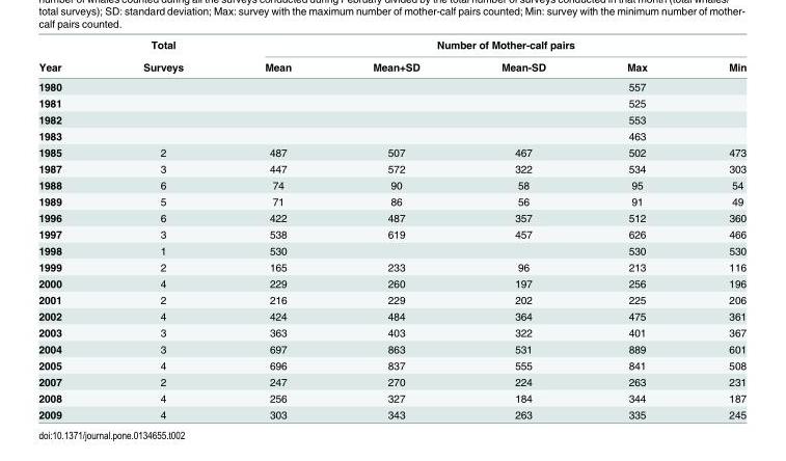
<table><thead><tr><td rowspan="2">Year</td><td rowspan="2">Total Surveys</td><td colspan="5">Number of Mother-calf pairs</td></tr><tr><td>Mean</td><td>Mean+SD</td><td>Mean-SD</td><td>Max</td><td>Min</td></tr></thead><tbody><tr><td>1980</td><td></td><td></td><td></td><td></td><td>557</td><td></td></tr><tr><td>1981</td><td></td><td></td><td></td><td></td><td>525</td><td></td></tr><tr><td>1982</td><td></td><td></td><td></td><td></td><td>553</td><td></td></tr><tr><td>1983</td><td></td><td></td><td></td><td></td><td>463</td><td></td></tr><tr><td>1985</td><td>2</td><td>487</td><td>507</td><td>467</td><td>502</td><td>473</td></tr><tr><td>1987</td><td>3</td><td>447</td><td>572</td><td>322</td><td>534</td><td>303</td></tr><tr><td>1988</td><td>6</td><td>74</td><td>90</td><td>58</td><td>95</td><td>54</td></tr><tr><td>1989</td><td>5</td><td>71</td><td>86</td><td>56</td><td>91</td><td>49</td></tr><tr><td>1996</td><td>6</td><td>422</td><td>487</td><td>357</td><td>512</td><td>360</td></tr><tr><td>1997</td><td>3</td><td>538</td><td>619</td><td>457</td><td>626</td><td>466</td></tr><tr><td>1998</td><td>1</td><td>530</td><td></td><td></td><td>530</td><td>530</td></tr><tr><td>1999</td><td>2</td><td>165</td><td>233</td><td>96</td><td>213</td><td>116</td></tr><tr><td>2000</td><td>4</td><td>229</td><td>260</td><td>197</td><td>256</td><td>196</td></tr><tr><td>2001</td><td>2</td><td>216</td><td>229</td><td>202</td><td>225</td><td>206</td></tr><tr><td>2002</td><td>4</td><td>424</td><td>484</td><td>364</td><td>475</td><td>361</td></tr><tr><td>2003</td><td>3</td><td>363</td><td>403</td><td>322</td><td>401</td><td>367</td></tr><tr><td>2004</td><td>3</td><td>697</td><td>863</td><td>531</td><td>889</td><td>601</td></tr><tr><td>2005</td><td>4</td><td>696</td><td>837</td><td>555</td><td>841</td><td>508</td></tr><tr><td>2007</td><td>2</td><td>247</td><td>270</td><td>224</td><td>263</td><td>231</td></tr><tr><td>2008</td><td>4</td><td>256</td><td>327</td><td>184</td><td>344</td><td>187</td></tr><tr><td>2009</td><td>4</td><td>303</td><td>343</td><td>263</td><td>335</td><td>245</td></tr></tbody></table>